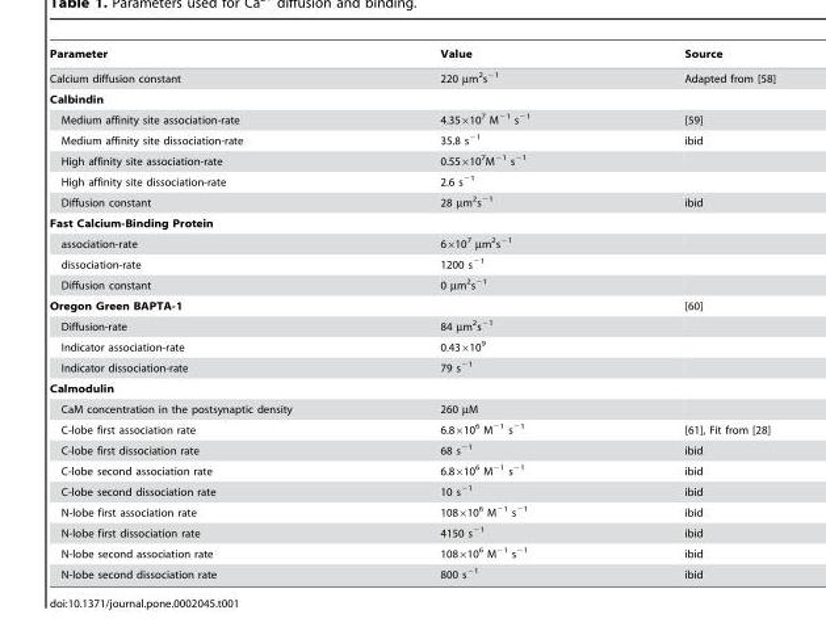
<table><thead><tr><td>Parameter</td><td>Value</td><td>Source</td></tr></thead><tbody><tr><td>Calcium diffusion constant</td><td>220 µm<sup>2</sup>s<sup>−1</sup></td><td>Adapted from [58]</td></tr><tr><td colspan="3">Calbindin</td></tr><tr><td>Medium affinity site association-rate</td><td>4.35×10<sup>7</sup> M<sup>−1</sup> s<sup>−1</sup></td><td>[59]</td></tr><tr><td>Medium affinity site dissociation-rate</td><td>35.8 s<sup>−1</sup></td><td>ibid</td></tr><tr><td>High affinity site association-rate</td><td>0.55×10<sup>7</sup>M<sup>−1</sup> s<sup>−1</sup></td><td></td></tr><tr><td>High affinity site dissociation-rate</td><td>2.6 s<sup>−1</sup></td><td></td></tr><tr><td>Diffusion constant</td><td>28 µm<sup>2</sup>s<sup>−1</sup></td><td>ibid</td></tr><tr><td colspan="3">Fast Calcium-Binding Protein</td></tr><tr><td>association-rate</td><td>6×10<sup>7</sup> µm<sup>2</sup>s<sup>−1</sup></td><td></td></tr><tr><td>dissociation-rate</td><td>1200 s<sup>−1</sup></td><td></td></tr><tr><td>Diffusion constant</td><td>0 µm<sup>2</sup>s<sup>−1</sup></td><td></td></tr><tr><td>Oregon Green BAPTA-1</td><td></td><td>[60]</td></tr><tr><td>Diffusion-rate</td><td>84 µm<sup>2</sup>s<sup>−1</sup></td><td></td></tr><tr><td>Indicator association-rate</td><td>0.43×10<sup>9</sup></td><td></td></tr><tr><td>Indicator dissociation-rate</td><td>79 s<sup>−1</sup></td><td></td></tr><tr><td colspan="3">Calmodulin</td></tr><tr><td>CaM concentration in the postsynaptic density</td><td>260 µM</td><td></td></tr><tr><td>C-lobe first association rate</td><td>6.8×10<sup>6</sup> M<sup>−1</sup> s<sup>−1</sup></td><td>[61], Fit from [28]</td></tr><tr><td>C-lobe first dissociation rate</td><td>68 s<sup>−1</sup></td><td>ibid</td></tr><tr><td>C-lobe second association rate</td><td>6.8×10<sup>6</sup> M<sup>−1</sup> s<sup>−1</sup></td><td>ibid</td></tr><tr><td>C-lobe second dissociation rate</td><td>10 s<sup>−1</sup></td><td>ibid</td></tr><tr><td>N-lobe first association rate</td><td>108×10<sup>6</sup> M<sup>−1</sup> s<sup>−1</sup></td><td>ibid</td></tr><tr><td>N-lobe first dissociation rate</td><td>4150 s<sup>−1</sup></td><td>ibid</td></tr><tr><td>N-lobe second association rate</td><td>108×10<sup>6</sup> M<sup>−1</sup> s<sup>−1</sup></td><td>ibid</td></tr><tr><td>N-lobe second dissociation rate</td><td>800 s<sup>−1</sup></td><td>ibid</td></tr></tbody></table>